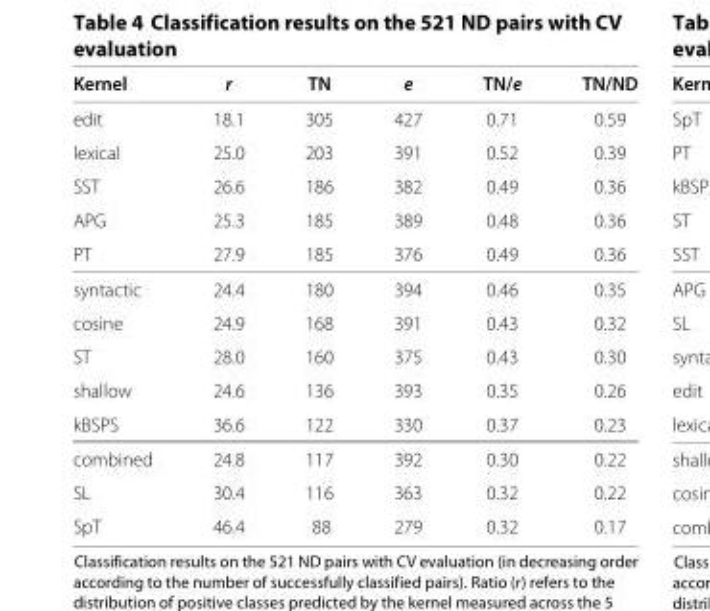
<table><thead><tr><td>Kernel</td><td>r</td><td>TN</td><td>e</td><td>TN/e</td><td>TN/ND</td></tr></thead><tbody><tr><td>edit</td><td>18.1</td><td>305</td><td>427</td><td>0.71</td><td>0.59</td></tr><tr><td>lexical</td><td>25.0</td><td>203</td><td>391</td><td>0.52</td><td>0.39</td></tr><tr><td>SST</td><td>26.6</td><td>186</td><td>382</td><td>0.49</td><td>0.36</td></tr><tr><td>APG</td><td>25.3</td><td>185</td><td>389</td><td>0.48</td><td>0.36</td></tr><tr><td>PT</td><td>27.9</td><td>185</td><td>376</td><td>0.49</td><td>0.36</td></tr><tr><td>syntactic</td><td>24.4</td><td>180</td><td>394</td><td>0.46</td><td>0.35</td></tr><tr><td>cosine</td><td>24.9</td><td>168</td><td>391</td><td>0.43</td><td>0.32</td></tr><tr><td>ST</td><td>28.0</td><td>160</td><td>375</td><td>0.43</td><td>0.30</td></tr><tr><td>shallow</td><td>24.6</td><td>136</td><td>393</td><td>0.35</td><td>0.26</td></tr><tr><td>kBSPS</td><td>36.6</td><td>122</td><td>330</td><td>0.37</td><td>0.23</td></tr><tr><td>combined</td><td>24.8</td><td>117</td><td>392</td><td>0.30</td><td>0.22</td></tr><tr><td>SL</td><td>30.4</td><td>116</td><td>363</td><td>0.32</td><td>0.22</td></tr><tr><td>SpT</td><td>46.4</td><td>88</td><td>279</td><td>0.32</td><td>0.17</td></tr></tbody></table>